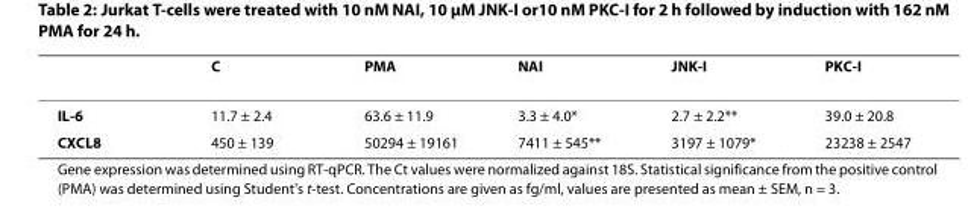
<table><thead><tr><td></td><td>C</td><td>PMA</td><td>NAI</td><td>JNK-I</td><td>PKC-I</td></tr></thead><tbody><tr><td>IL-6</td><td>11.7 ± 2.4</td><td>63.6 ± 11.9</td><td>3.3 ± 4.0*</td><td>2.7 ± 2.2**</td><td>39.0 ± 20.8</td></tr><tr><td>CXCL8</td><td>450 ± 139</td><td>50294 ± 19161</td><td>7411 ± 545**</td><td>3197 ± 1079*</td><td>23238 ± 2547</td></tr></tbody></table>